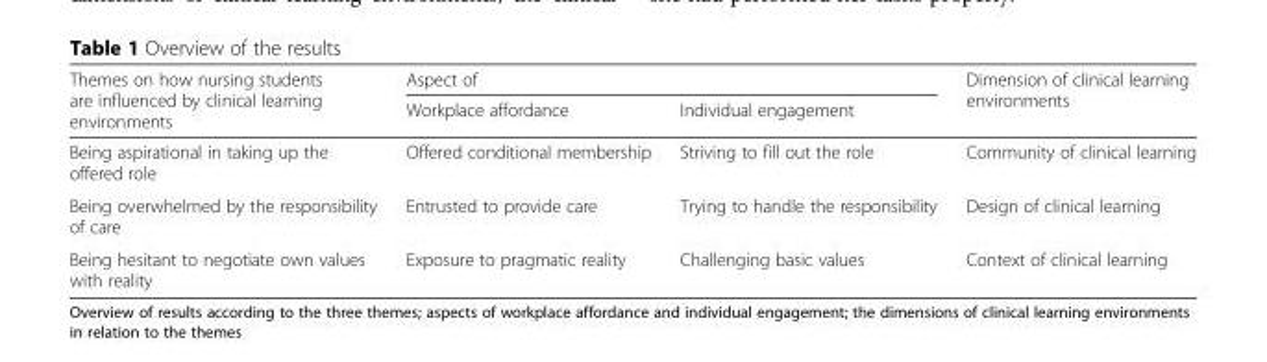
<table><thead><tr><td rowspan="2">Themes on how nursing students are influenced by clinical learning environments</td><td colspan="2">Aspect of</td><td rowspan="2">Dimension of clinical learning environments</td></tr><tr><td>Workplace affordance</td><td>Individual engagement</td></tr></thead><tbody><tr><td>Being aspirational in taking up the offered role</td><td>Offered conditional membership</td><td>Striving to fill out the role</td><td>Community of clinical learning</td></tr><tr><td>Being overwhelmed by the responsibility of care</td><td>Entrusted to provide care</td><td>Trying to handle the responsibility</td><td>Design of clinical learning</td></tr><tr><td>Being hesitant to negotiate own values with reality</td><td>Exposure to pragmatic reality</td><td>Challenging basic values</td><td>Context of clinical learning</td></tr></tbody></table>